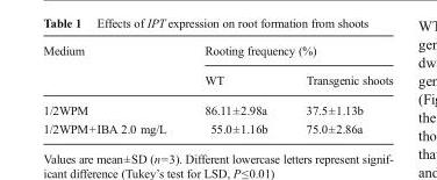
<table><thead><tr><td rowspan="2">Medium</td><td colspan="2">Rooting frequency (%)</td></tr><tr><td>WT</td><td>Transgenic shoots</td></tr></thead><tbody><tr><td>1/2WPM</td><td>86.11±2.98a</td><td>37.5±1.13b</td></tr><tr><td>1/2WPM+IBA 2.0 mg/L</td><td>55.0±1.16b</td><td>75.0±2.86a</td></tr></tbody></table>